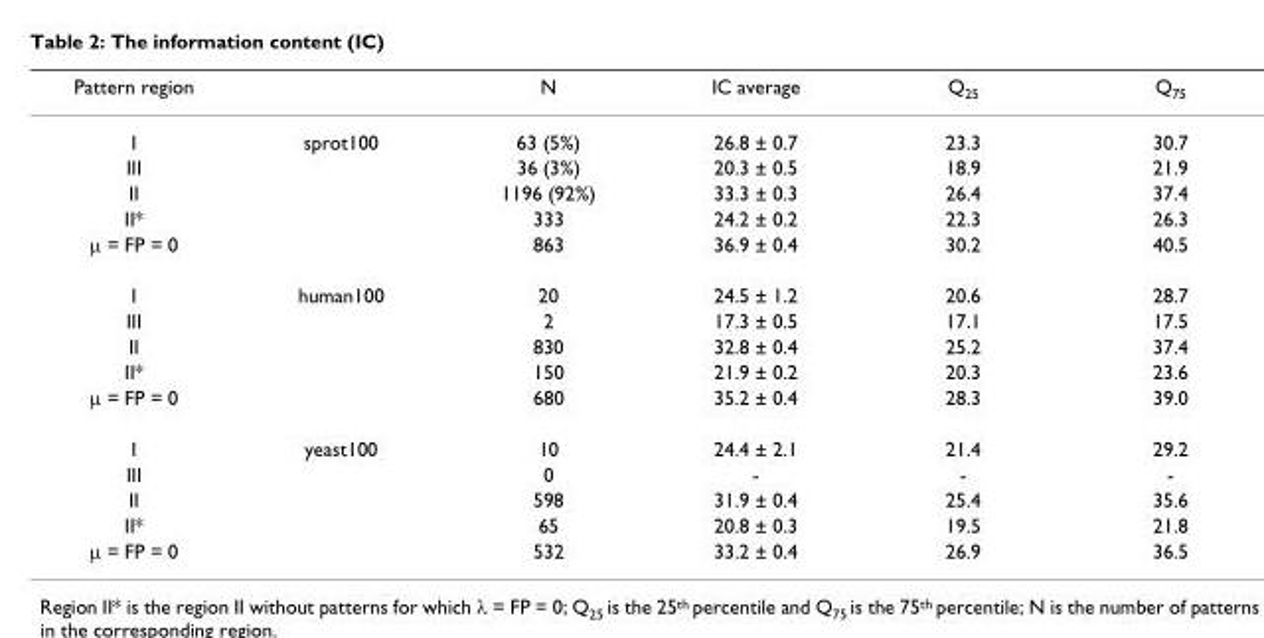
<table><thead><tr><td>Pattern region</td><td></td><td>N</td><td>IC average</td><td>Q<sub>25</sub></td><td>Q<sub>75</sub></td></tr></thead><tbody><tr><td>I</td><td>sprot100</td><td>63 (5%)</td><td>26.8 ± 0.7</td><td>23.3</td><td>30.7</td></tr><tr><td>III</td><td></td><td>36 (3%)</td><td>20.3 ± 0.5</td><td>18.9</td><td>21.9</td></tr><tr><td>II</td><td></td><td>1196 (92%)</td><td>33.3 ± 0.3</td><td>26.4</td><td>37.4</td></tr><tr><td>II*</td><td></td><td>333</td><td>24.2 ± 0.2</td><td>22.3</td><td>26.3</td></tr><tr><td>μ = FP = 0</td><td></td><td>863</td><td>36.9 ± 0.4</td><td>30.2</td><td>40.5</td></tr><tr><td>I</td><td>human100</td><td>20</td><td>24.5 ± 1.2</td><td>20.6</td><td>28.7</td></tr><tr><td>III</td><td></td><td>2</td><td>17.3 ± 0.5</td><td>17.1</td><td>17.5</td></tr><tr><td>II</td><td></td><td>830</td><td>32.8 ± 0.4</td><td>25.2</td><td>37.4</td></tr><tr><td>II*</td><td></td><td>150</td><td>21.9 ± 0.2</td><td>20.3</td><td>23.6</td></tr><tr><td>μ = FP = 0</td><td></td><td>680</td><td>35.2 ± 0.4</td><td>28.3</td><td>39.0</td></tr><tr><td>I</td><td>yeast100</td><td>10</td><td>24.4 ± 2.1</td><td>21.4</td><td>29.2</td></tr><tr><td>III</td><td></td><td>0</td><td>-</td><td>-</td><td>-</td></tr><tr><td>II</td><td></td><td>598</td><td>31.9 ± 0.4</td><td>25.4</td><td>35.6</td></tr><tr><td>II*</td><td></td><td>65</td><td>20.8 ± 0.3</td><td>19.5</td><td>21.8</td></tr><tr><td>μ = FP = 0</td><td></td><td>532</td><td>33.2 ± 0.4</td><td>26.9</td><td>36.5</td></tr></tbody></table>